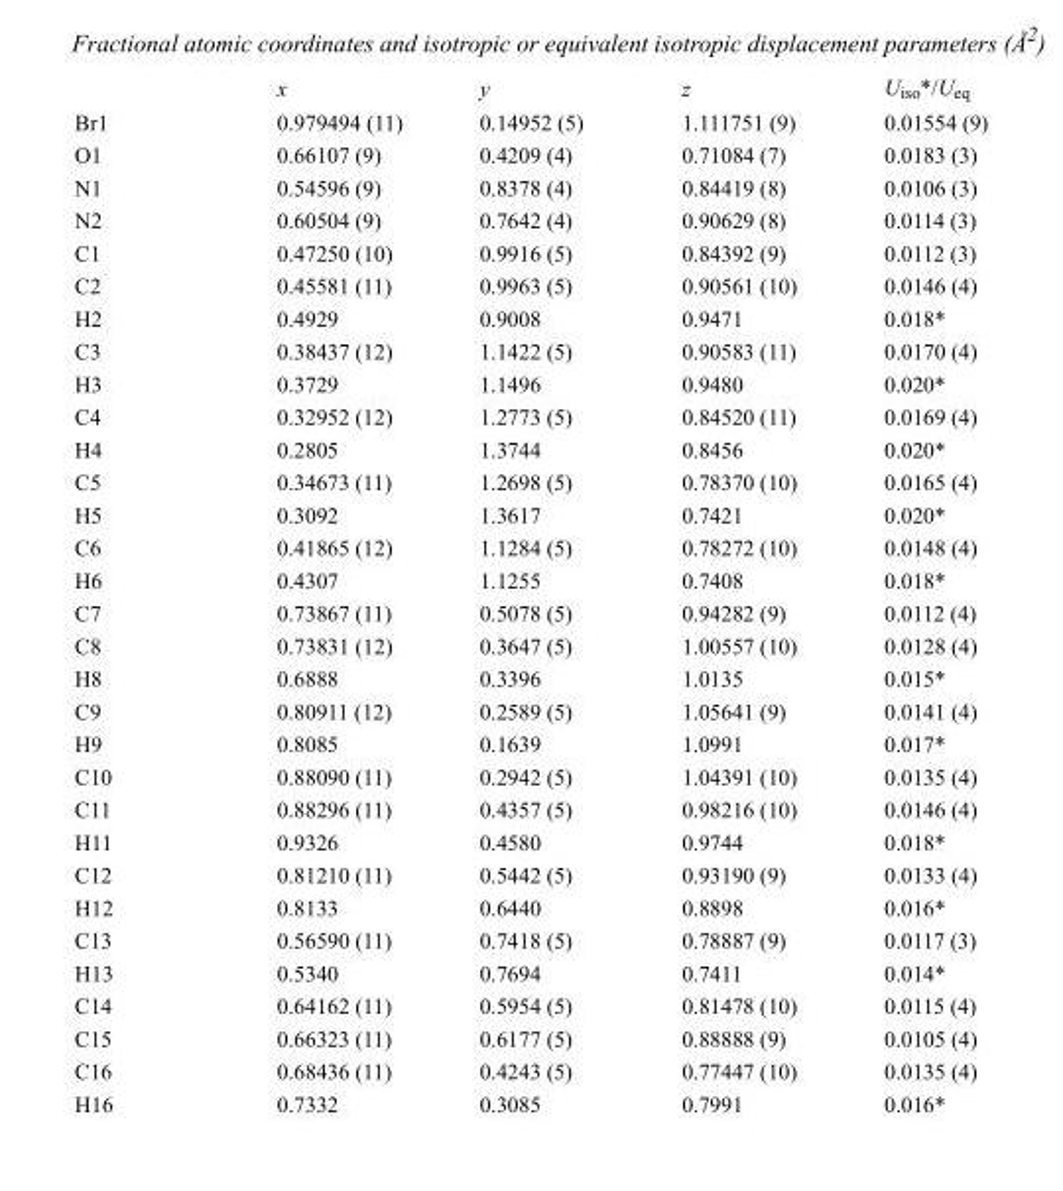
<table><thead><tr><td></td><td>x</td><td>y</td><td>z</td><td>U<sub>iso</sub>*/U<sub>eq</sub></td></tr></thead><tbody><tr><td>Br1</td><td>0.979494 (11)</td><td>0.14952 (5)</td><td>1.111751 (9)</td><td>0.01554 (9)</td></tr><tr><td>O1</td><td>0.66107 (9)</td><td>0.4209 (4)</td><td>0.71084 (7)</td><td>0.0183 (3)</td></tr><tr><td>N1</td><td>0.54596 (9)</td><td>0.8378 (4)</td><td>0.84419 (8)</td><td>0.0106 (3)</td></tr><tr><td>N2</td><td>0.60504 (9)</td><td>0.7642 (4)</td><td>0.90629 (8)</td><td>0.0114 (3)</td></tr><tr><td>C1</td><td>0.47250 (10)</td><td>0.9916 (5)</td><td>0.84392 (9)</td><td>0.0112 (3)</td></tr><tr><td>C2</td><td>0.45581 (11)</td><td>0.9963 (5)</td><td>0.90561 (10)</td><td>0.0146 (4)</td></tr><tr><td>H2</td><td>0.4929</td><td>0.9008</td><td>0.9471</td><td>0.018*</td></tr><tr><td>C3</td><td>0.38437 (12)</td><td>1.1422 (5)</td><td>0.90583 (11)</td><td>0.0170 (4)</td></tr><tr><td>H3</td><td>0.3729</td><td>1.1496</td><td>0.9480</td><td>0.020*</td></tr><tr><td>C4</td><td>0.32952 (12)</td><td>1.2773 (5)</td><td>0.84520 (11)</td><td>0.0169 (4)</td></tr><tr><td>H4</td><td>0.2805</td><td>1.3744</td><td>0.8456</td><td>0.020*</td></tr><tr><td>C5</td><td>0.34673 (11)</td><td>1.2698 (5)</td><td>0.78370 (10)</td><td>0.0165 (4)</td></tr><tr><td>H5</td><td>0.3092</td><td>1.3617</td><td>0.7421</td><td>0.020*</td></tr><tr><td>C6</td><td>0.41865 (12)</td><td>1.1284 (5)</td><td>0.78272 (10)</td><td>0.0148 (4)</td></tr><tr><td>H6</td><td>0.4307</td><td>1.1255</td><td>0.7408</td><td>0.018*</td></tr><tr><td>C7</td><td>0.73867 (11)</td><td>0.5078 (5)</td><td>0.94282 (9)</td><td>0.0112 (4)</td></tr><tr><td>C8</td><td>0.73831 (12)</td><td>0.3647 (5)</td><td>1.00557 (10)</td><td>0.0128 (4)</td></tr><tr><td>H8</td><td>0.6888</td><td>0.3396</td><td>1.0135</td><td>0.015*</td></tr><tr><td>C9</td><td>0.80911 (12)</td><td>0.2589 (5)</td><td>1.05641 (9)</td><td>0.0141 (4)</td></tr><tr><td>H9</td><td>0.8085</td><td>0.1639</td><td>1.0991</td><td>0.017*</td></tr><tr><td>C10</td><td>0.88090 (11)</td><td>0.2942 (5)</td><td>1.04391 (10)</td><td>0.0135 (4)</td></tr><tr><td>C11</td><td>0.88296 (11)</td><td>0.4357 (5)</td><td>0.98216 (10)</td><td>0.0146 (4)</td></tr><tr><td>H11</td><td>0.9326</td><td>0.4580</td><td>0.9744</td><td>0.018*</td></tr><tr><td>C12</td><td>0.81210 (11)</td><td>0.5442 (5)</td><td>0.93190 (9)</td><td>0.0133 (4)</td></tr><tr><td>H12</td><td>0.8133</td><td>0.6440</td><td>0.8898</td><td>0.016*</td></tr><tr><td>C13</td><td>0.56590 (11)</td><td>0.7418 (5)</td><td>0.78887 (9)</td><td>0.0117 (3)</td></tr><tr><td>H13</td><td>0.5340</td><td>0.7694</td><td>0.7411</td><td>0.014*</td></tr><tr><td>C14</td><td>0.64162 (11)</td><td>0.5954 (5)</td><td>0.81478 (10)</td><td>0.0115 (4)</td></tr><tr><td>C15</td><td>0.66323 (11)</td><td>0.6177 (5)</td><td>0.88888 (9)</td><td>0.0105 (4)</td></tr><tr><td>C16</td><td>0.68436 (11)</td><td>0.4243 (5)</td><td>0.77447 (10)</td><td>0.0135 (4)</td></tr><tr><td>H16</td><td>0.7332</td><td>0.3085</td><td>0.7991</td><td>0.016*</td></tr></tbody></table>